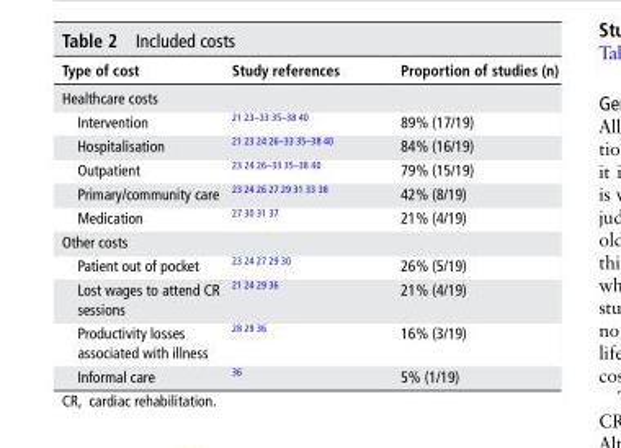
<table><thead><tr><td>type of cost</td><td>study references</td><td>Proportion of studies (n)</td></tr></thead><tbody><tr><td colspan="3">Healthcare costs</td></tr><tr><td>Intervention</td><td>21 23–33 35–38 40</td><td>89% (17/19)</td></tr><tr><td>Hospitalisation</td><td>21 23 24 26–33 35–38 40</td><td>84% (16/19)</td></tr><tr><td>Outpatient</td><td>23 24 26–33 35–38 40</td><td>79% (15/19)</td></tr><tr><td>Primary/community care</td><td>23 24 26 27 29 31 33 38</td><td>42% (8/19)</td></tr><tr><td>Medication</td><td>27 30 31 37</td><td>21% (4/19)</td></tr><tr><td colspan="3">Other costs</td></tr><tr><td>Patient out of pocket</td><td>23 24 27 29 30</td><td>26% (5/19)</td></tr><tr><td>Lost wages to attend CR sessions</td><td>21 24 29 36</td><td>21% (4/19)</td></tr><tr><td>Productivity losses associated with illness</td><td>28 29 36</td><td>16% (3/19)</td></tr><tr><td>Informal care</td><td>36</td><td>5% (1/19)</td></tr></tbody></table>